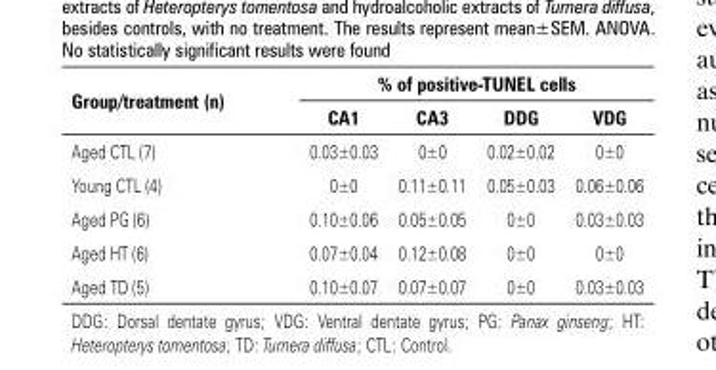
<table><thead><tr><td rowspan="2">Group/treatment (n)</td><td colspan="4">% of positive-TUNEL cells</td></tr><tr><td>CA1</td><td>CA3</td><td>DDG</td><td>VDG</td></tr></thead><tbody><tr><td>Aged CTL (7)</td><td>0.03±0.03</td><td>0±0</td><td>0.02±0.02</td><td>0±0</td></tr><tr><td>Young CTL (4)</td><td>0±0</td><td>0.11±0.11</td><td>0.05±0.03</td><td>0.06±0.06</td></tr><tr><td>Aged PG (6)</td><td>0.10±0.06</td><td>0.05±0.05</td><td>0±0</td><td>0.03±0.03</td></tr><tr><td>Aged HT (6)</td><td>0.07±0.04</td><td>0.12±0.08</td><td>0±0</td><td>0±0</td></tr><tr><td>Aged TD (5)</td><td>0.10±0.07</td><td>0.07±0.07</td><td>0±0</td><td>0.03±0.03</td></tr></tbody></table>